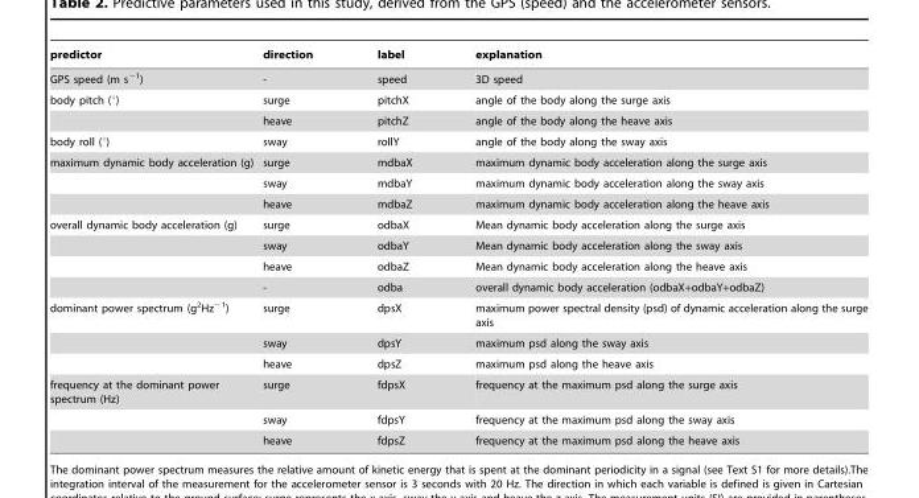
<table><thead><tr><td>predictor</td><td>direction</td><td>label</td><td>explanation</td></tr></thead><tbody><tr><td>GPS speed (m s<sup>−1</sup>)</td><td>-</td><td>speed</td><td>3D speed</td></tr><tr><td rowspan="2">body pitch (°)</td><td>surge</td><td>pitchX</td><td>angle of the body along the surge axis</td></tr><tr><td>heave</td><td>pitchZ</td><td>angle of the body along the heave axis</td></tr><tr><td>body roll (°)</td><td>sway</td><td>rollY</td><td>angle of the body along the sway axis</td></tr><tr><td rowspan="3">maximum dynamic body acceleration (g)</td><td>surge</td><td>mdbaX</td><td>maximum dynamic body acceleration along the surge axis</td></tr><tr><td>sway</td><td>mdbaY</td><td>maximum dynamic body acceleration along the sway axis</td></tr><tr><td>heave</td><td>mdbaZ</td><td>maximum dynamic body acceleration along the heave axis</td></tr><tr><td rowspan="4">overall dynamic body acceleration (g)</td><td>surge</td><td>odbaX</td><td>Mean dynamic body acceleration along the surge axis</td></tr><tr><td>sway</td><td>odbaY</td><td>Mean dynamic body acceleration along the sway axis</td></tr><tr><td>heave</td><td>odbaZ</td><td>Mean dynamic body acceleration along the heave axis</td></tr><tr><td>-</td><td>odba</td><td>overall dynamic body acceleration (odbaX+odbaY+odbaZ)</td></tr><tr><td rowspan="3">dominant power spectrum (g<sup>2</sup>Hz<sup>−1</sup>)</td><td>surge</td><td>dpsX</td><td>maximum power spectral density (psd) of dynamic acceleration along the surge axis</td></tr><tr><td>sway</td><td>dpsY</td><td>maximum psd along the sway axis</td></tr><tr><td>heave</td><td>dpsZ</td><td>maximum psd along the heave axis</td></tr><tr><td rowspan="3">frequency at the dominant power spectrum (Hz)</td><td>surge</td><td>fdpsX</td><td>frequency at the maximum psd along the surge axis</td></tr><tr><td>sway</td><td>fdpsY</td><td>frequency at the maximum psd along the sway axis</td></tr><tr><td>heave</td><td>fdpsZ</td><td>frequency at the maximum psd along the heave axis</td></tr></tbody></table>